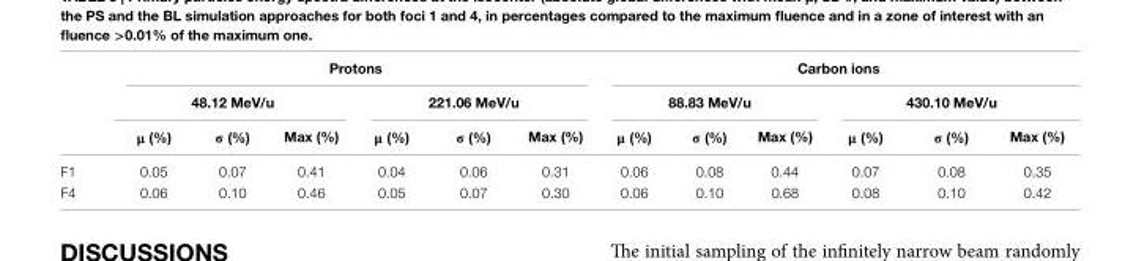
<table><thead><tr><td rowspan="3"></td><td colspan="6">Protons</td><td colspan="6">carbon ions</td></tr><tr><td colspan="3">48.12 MeV/u</td><td colspan="3">221.06 MeV/u</td><td colspan="3">88.83 MeV/u</td><td colspan="3">430.10 MeV/u</td></tr><tr><td>μ (%)</td><td>σ (%)</td><td>Max (%)</td><td>μ (%)</td><td>σ (%)</td><td>Max (%)</td><td>μ (%)</td><td>σ (%)</td><td>Max (%)</td><td>μ (%)</td><td>σ (%)</td><td>Max (%)</td></tr></thead><tbody><tr><td>F1</td><td>0.05</td><td>0.07</td><td>0.41</td><td>0.04</td><td>0.06</td><td>0.31</td><td>0.06</td><td>0.08</td><td>0.44</td><td>0.07</td><td>0.08</td><td>0.35</td></tr><tr><td>F4</td><td>0.06</td><td>0.10</td><td>0.46</td><td>0.05</td><td>0.07</td><td>0.30</td><td>0.06</td><td>0.10</td><td>0.68</td><td>0.08</td><td>0.10</td><td>0.42</td></tr></tbody></table>